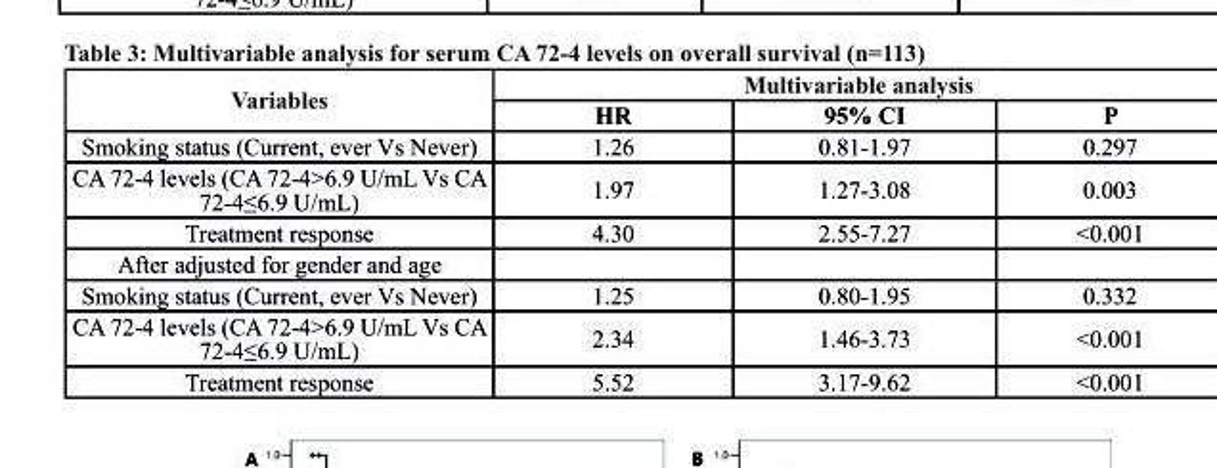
<table><thead><tr><td rowspan="2">Variables</td><td colspan="3">Multivariable analysis</td></tr><tr><td>Hr</td><td>95% CI</td><td>P</td></tr></thead><tbody><tr><td>Smoking status (Current, ever Vs Never)</td><td>1.26</td><td>0.81-1.97</td><td>0.297</td></tr><tr><td>CA 72-4 levels (CA 72-4&gt;6.9 U/mL Vs CA 72-4≤6.9 U/mL)</td><td>1.97</td><td>1.27-3.08</td><td>0.003</td></tr><tr><td>Treatment response</td><td>4.30</td><td>2.55-7.27</td><td>&lt;0.001</td></tr><tr><td colspan="4">After adjusted for gender and age</td></tr><tr><td>Smoking status (Current, ever Vs Never)</td><td>1.25</td><td>0.80-1.95</td><td>0.332</td></tr><tr><td>CA 72-4 levels (CA 72-4&gt;6.9 U/mL Vs CA 72-4≤6.9 U/mL)</td><td>2.34</td><td>1.46-3.73</td><td>&lt;0.001</td></tr><tr><td>Treatment response</td><td>5.52</td><td>3.17-9.62</td><td>&lt;0.001</td></tr></tbody></table>